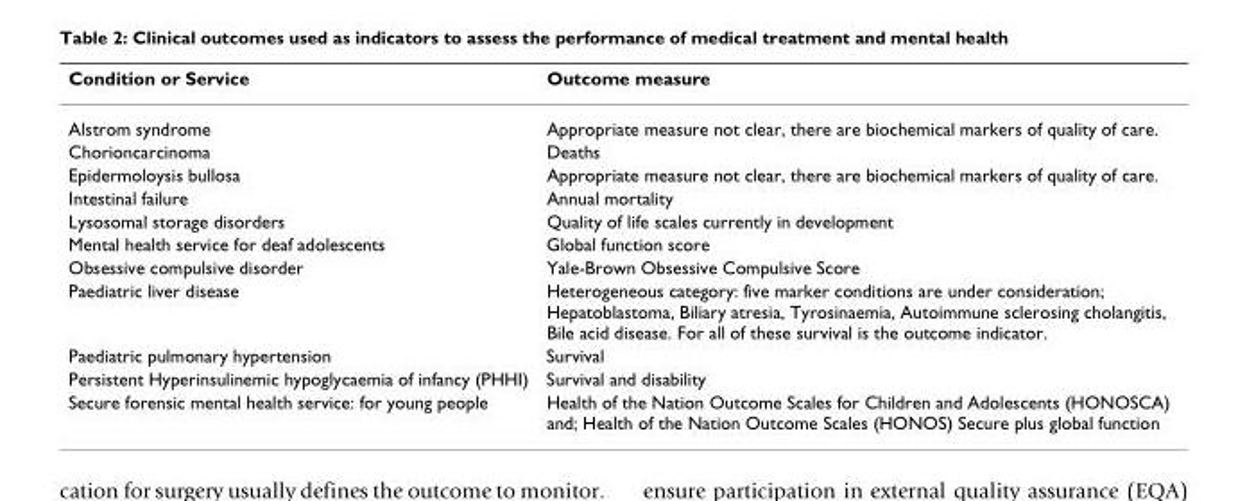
<table><thead><tr><td>Condition or Service</td><td>Outcome measure</td></tr></thead><tbody><tr><td>Alstrom syndrome</td><td>Appropriate measure not clear, there are biochemical markers of quality of care.</td></tr><tr><td>Chorioncarcinoma</td><td>Deaths</td></tr><tr><td>Epidermoloysis bullosa</td><td>Appropriate measure not clear, there are biochemical markers of quality of care.</td></tr><tr><td>Intestinal failure</td><td>Annual mortality</td></tr><tr><td>Lysosomal storage disorders</td><td>Quality of life scales currently in development</td></tr><tr><td>Mental health service for deaf adolescents</td><td>Global function score</td></tr><tr><td>Obsessive compulsive disorder</td><td>Yale-Brown Obsessive Compulsive Score</td></tr><tr><td>Paediatric liver disease</td><td>Heterogeneous category: five marker conditions are under consideration; Hepatoblastoma, Biliary atresia, Tyrosinaemia, Autoimmune sclerosing cholangitis, Bile acid disease. For all of these survival is the outcome indicator.</td></tr><tr><td>Paediatric pulmonary hypertension</td><td>Survival</td></tr><tr><td>Persistent Hyperinsulinemic hypoglycaemia of infancy (PHHI)</td><td>Survival and disability</td></tr><tr><td>Secure forensic mental health service: for young people</td><td>Health of the Nation Outcome Scales for Children and Adolescents (HONOSCA) and; Health of the Nation Outcome Scales (HONOS) Secure plus global function</td></tr></tbody></table>